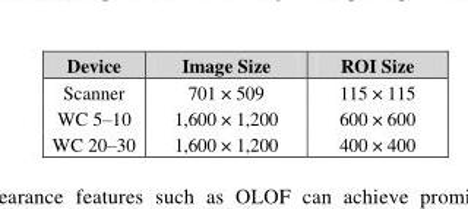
<table><thead><tr><td>Device</td><td>Image Size</td><td>ROI Size</td></tr></thead><tbody><tr><td>Scanner</td><td>701 × 509</td><td>115 × 115</td></tr><tr><td>WC 5–10</td><td>1,600 × 1,200</td><td>600 × 600</td></tr><tr><td>WC 20–30</td><td>1,600 × 1,200</td><td>400 × 400</td></tr></tbody></table>